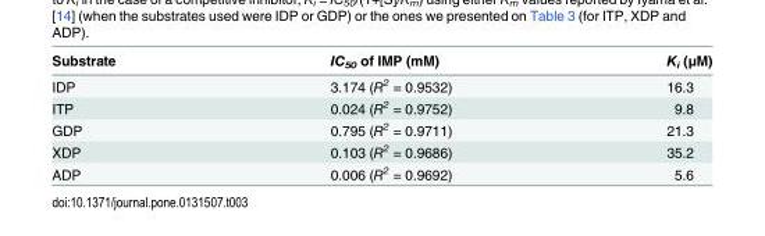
<table><thead><tr><td>Substrate</td><td>IC<sub>50</sub> of IMP (mM)</td><td>K<sub>i</sub> (μM)</td></tr></thead><tbody><tr><td>IDP</td><td>3.174 (R<sup>2</sup> = 0.9532)</td><td>16.3</td></tr><tr><td>ITP</td><td>0.024 (R<sup>2</sup> = 0.9752)</td><td>9.8</td></tr><tr><td>GDP</td><td>0.795 (R<sup>2</sup> = 0.9711)</td><td>21.3</td></tr><tr><td>XDP</td><td>0.103 (R<sup>2</sup> = 0.9686)</td><td>35.2</td></tr><tr><td>ADP</td><td>0.006 (R<sup>2</sup> = 0.9692)</td><td>5.6</td></tr></tbody></table>